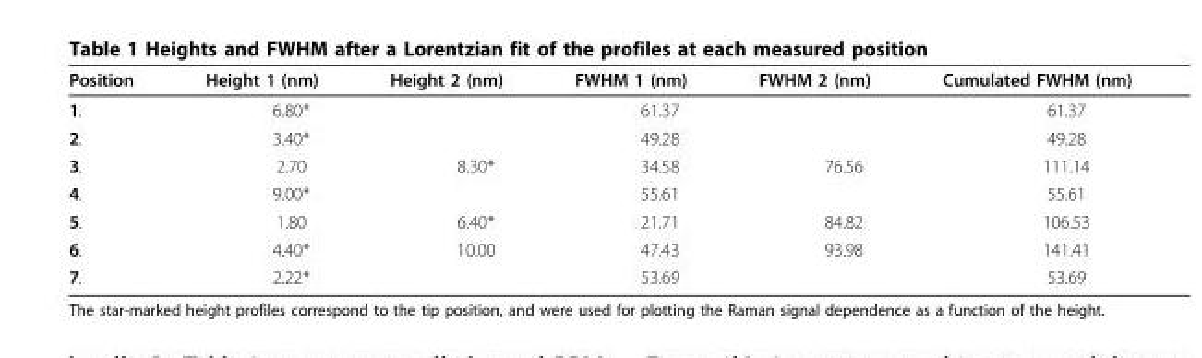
<table><thead><tr><td>Position</td><td>Height 1 (nm)</td><td>Height 2 (nm)</td><td>FWHM 1 (nm)</td><td>FWHM 2 (nm)</td><td>Cumulated FWHM (nm)</td></tr></thead><tbody><tr><td>1.</td><td>6.80*</td><td></td><td>61.37</td><td></td><td>61.37</td></tr><tr><td>2.</td><td>3.40*</td><td></td><td>49.28</td><td></td><td>49.28</td></tr><tr><td>3.</td><td>2.70</td><td>8.30*</td><td>34.58</td><td>76.56</td><td>111.14</td></tr><tr><td>4.</td><td>9.00*</td><td></td><td>55.61</td><td></td><td>55.61</td></tr><tr><td>5.</td><td>1.80</td><td>6.40*</td><td>21.71</td><td>84.82</td><td>106.53</td></tr><tr><td>6.</td><td>4.40*</td><td>10.00</td><td>47.43</td><td>93.98</td><td>141.41</td></tr><tr><td>7.</td><td>2.22*</td><td></td><td>53.69</td><td></td><td>53.69</td></tr></tbody></table>